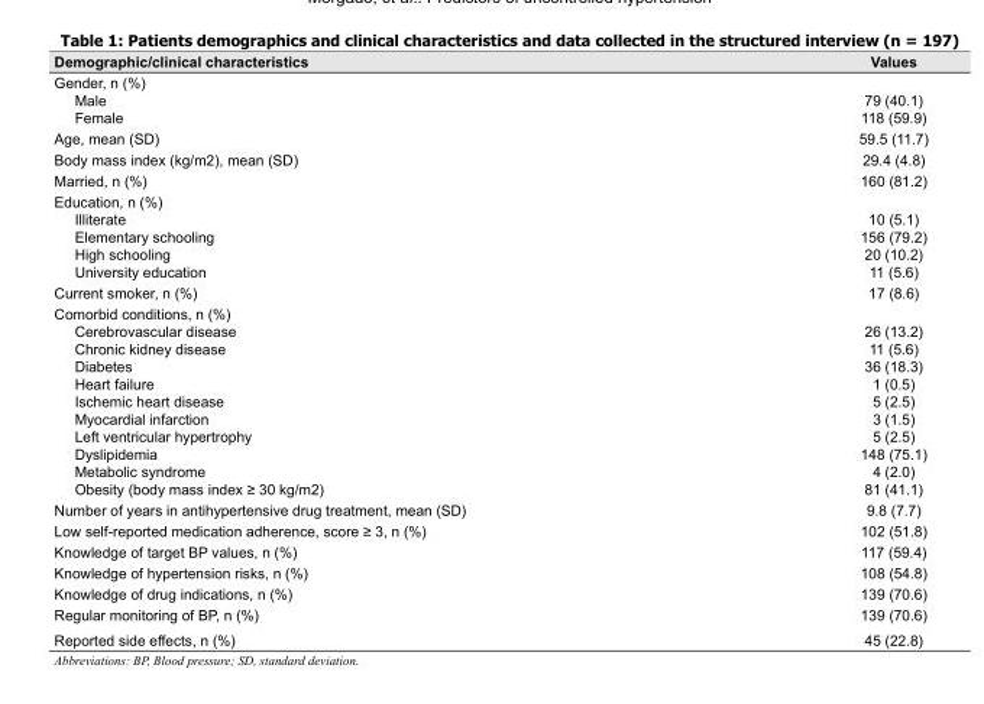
<table><thead><tr><td>Demographic/clinical characteristics</td><td>Values</td></tr></thead><tbody><tr><td colspan="2">Gender, n (%)</td></tr><tr><td>Male</td><td>79 (40.1)</td></tr><tr><td>Female</td><td>118 (59.9)</td></tr><tr><td>Age, mean (SD)</td><td>59.5 (11.7)</td></tr><tr><td>Body mass index (kg/m2), mean (SD)</td><td>29.4 (4.8)</td></tr><tr><td>Married, n (%)</td><td>160 (81.2)</td></tr><tr><td colspan="2">Education, n (%)</td></tr><tr><td>Illiterate</td><td>10 (5.1)</td></tr><tr><td>Elementary schooling</td><td>156 (79.2)</td></tr><tr><td>High schooling</td><td>20 (10.2)</td></tr><tr><td>University education</td><td>11 (5.6)</td></tr><tr><td>Current smoker, n (%)</td><td>17 (8.6)</td></tr><tr><td colspan="2">Comorbid conditions, n (%)</td></tr><tr><td>Cerebrovascular disease</td><td>26 (13.2)</td></tr><tr><td>Chronic kidney disease</td><td>11 (5.6)</td></tr><tr><td>Diabetes</td><td>36 (18.3)</td></tr><tr><td>Heart failure</td><td>1 (0.5)</td></tr><tr><td>Ischemic heart disease</td><td>5 (2.5)</td></tr><tr><td>Myocardial infarction</td><td>3 (1.5)</td></tr><tr><td>Left ventricular hypertrophy</td><td>5 (2.5)</td></tr><tr><td>Dyslipidemia</td><td>148 (75.1)</td></tr><tr><td>Metabolic syndrome</td><td>4 (2.0)</td></tr><tr><td>Obesity (body mass index ≥ 30 kg/m2)</td><td>81 (41.1)</td></tr><tr><td>Number of years in antihypertensive drug treatment, mean (SD)</td><td>9.8 (7.7)</td></tr><tr><td>Low self-reported medication adherence, score ≥ 3, n (%)</td><td>102 (51.8)</td></tr><tr><td>Knowledge of target BP values, n (%)</td><td>117 (59.4)</td></tr><tr><td>Knowledge of hypertension risks, n (%)</td><td>108 (54.8)</td></tr><tr><td>Knowledge of drug indications, n (%)</td><td>139 (70.6)</td></tr><tr><td>Regular monitoring of BP, n (%)</td><td>139 (70.6)</td></tr><tr><td>Reported side effects, n (%)</td><td>45 (22.8)</td></tr></tbody></table>